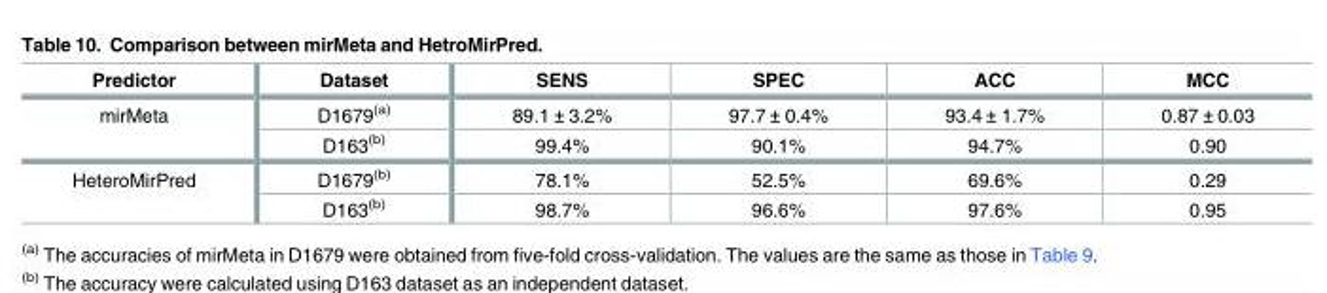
<table><thead><tr><td>Predictor</td><td>Dataset</td><td>SENS</td><td>SPEC</td><td>ACC</td><td>MCC</td></tr></thead><tbody><tr><td rowspan="2">mirMeta</td><td>D1679<sup>(a)</sup></td><td>89.1 ± 3.2%</td><td>97.7 ± 0.4%</td><td>93.4 ± 1.7%</td><td>0.87 ± 0.03</td></tr><tr><td>D163<sup>(b)</sup></td><td>99.4%</td><td>90.1%</td><td>94.7%</td><td>0.90</td></tr><tr><td rowspan="2">HeteroMirPred</td><td>D1679<sup>(b)</sup></td><td>78.1%</td><td>52.5%</td><td>69.6%</td><td>0.29</td></tr><tr><td>D163<sup>(b)</sup></td><td>98.7%</td><td>96.6%</td><td>97.6%</td><td>0.95</td></tr></tbody></table>